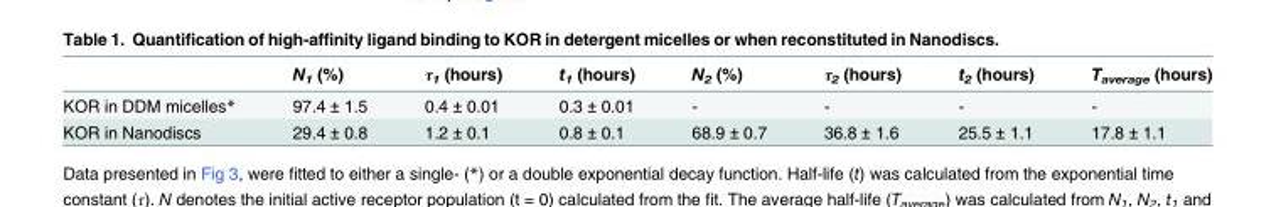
<table><thead><tr><td></td><td>N<sub>1</sub> (%)</td><td>τ<sub>1</sub> (hours)</td><td>t<sub>1</sub> (hours)</td><td>N<sub>2</sub> (%)</td><td>τ<sub>2</sub> (hours)</td><td>t<sub>2</sub> (hours)</td><td>T<sub>average</sub> (hours)</td></tr></thead><tbody><tr><td>KOR in DDM micelles*</td><td>97.4 ± 1.5</td><td>0.4 ± 0.01</td><td>0.3 ± 0.01</td><td>-</td><td>-</td><td>-</td><td>-</td></tr><tr><td>KOR in Nanodiscs</td><td>29.4 ± 0.8</td><td>1.2 ± 0.1</td><td>0.8 ± 0.1</td><td>68.9 ± 0.7</td><td>36.8 ± 1.6</td><td>25.5 ± 1.1</td><td>17.8 ± 1.1</td></tr></tbody></table>